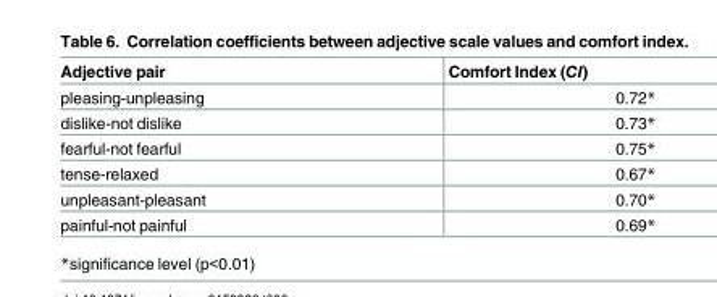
<table><thead><tr><td>Adjective pair</td><td>Comfort Index (CI)</td></tr></thead><tbody><tr><td>pleasing-unpleasing</td><td>0.72*</td></tr><tr><td>dislike-not dislike</td><td>0.73*</td></tr><tr><td>fearful-not fearful</td><td>0.75*</td></tr><tr><td>tense-relaxed</td><td>0.67*</td></tr><tr><td>unpleasant-pleasant</td><td>0.70*</td></tr><tr><td>painful-not painful</td><td>0.69*</td></tr></tbody></table>